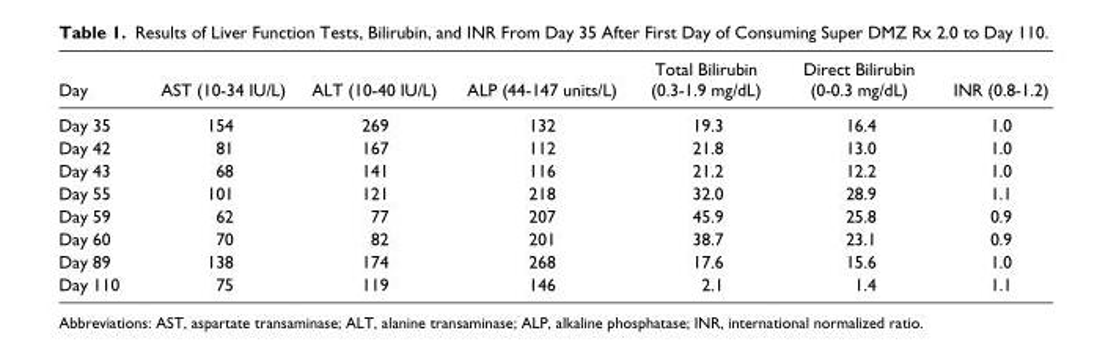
<table><thead><tr><td>Day</td><td>AST (10-34 IU/L)</td><td>ALT (10-40 IU/L)</td><td>ALP (44-147 units/L)</td><td>Total Bilirubin (0.3-1.9 mg/dL)</td><td>Direct Bilirubin (0-0.3 mg/dL)</td><td>INR (0.8-1.2)</td></tr></thead><tbody><tr><td>Day 35</td><td>154</td><td>269</td><td>132</td><td>19.3</td><td>16.4</td><td>1.0</td></tr><tr><td>Day 42</td><td>81</td><td>167</td><td>112</td><td>21.8</td><td>13.0</td><td>1.0</td></tr><tr><td>Day 43</td><td>68</td><td>141</td><td>116</td><td>21.2</td><td>12.2</td><td>1.0</td></tr><tr><td>Day 55</td><td>101</td><td>121</td><td>218</td><td>32.0</td><td>28.9</td><td>1.1</td></tr><tr><td>Day 59</td><td>62</td><td>77</td><td>207</td><td>45.9</td><td>25.8</td><td>0.9</td></tr><tr><td>Day 60</td><td>70</td><td>82</td><td>201</td><td>38.7</td><td>23.1</td><td>0.9</td></tr><tr><td>Day 89</td><td>138</td><td>174</td><td>268</td><td>17.6</td><td>15.6</td><td>1.0</td></tr><tr><td>Day 110</td><td>75</td><td>119</td><td>146</td><td>2.1</td><td>1.4</td><td>1.1</td></tr></tbody></table>